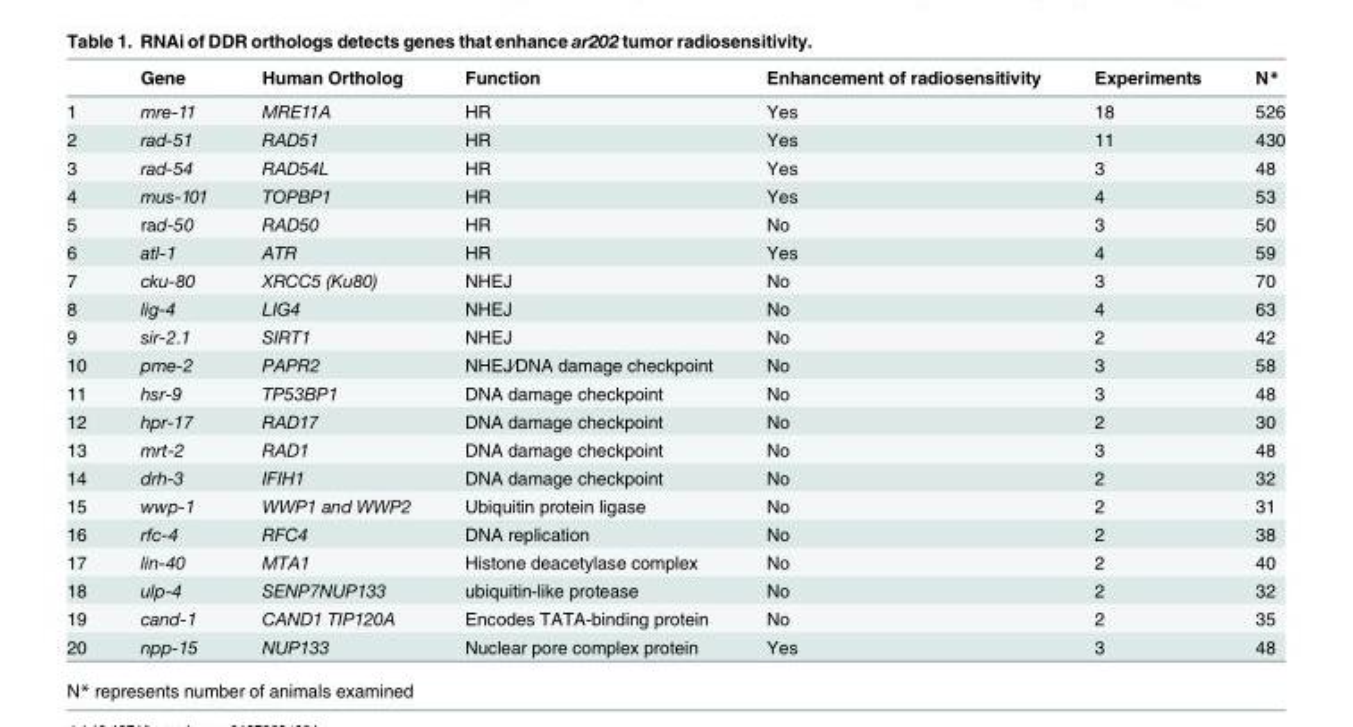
<table><thead><tr><td></td><td>Gene</td><td>Human Ortholog</td><td>Function</td><td>Enhancement of radiosensitivity</td><td>Experiments</td><td>N*</td></tr></thead><tbody><tr><td>1</td><td>mre-11</td><td>MRE11A</td><td>HR</td><td>Yes</td><td>18</td><td>526</td></tr><tr><td>2</td><td>rad-51</td><td>RAD51</td><td>HR</td><td>Yes</td><td>11</td><td>430</td></tr><tr><td>3</td><td>rad-54</td><td>RAD54L</td><td>HR</td><td>Yes</td><td>3</td><td>48</td></tr><tr><td>4</td><td>mus-101</td><td>TOPBP1</td><td>HR</td><td>Yes</td><td>4</td><td>53</td></tr><tr><td>5</td><td>rad-50</td><td>RAD50</td><td>HR</td><td>No</td><td>3</td><td>50</td></tr><tr><td>6</td><td>atl-1</td><td>ATR</td><td>HR</td><td>Yes</td><td>4</td><td>59</td></tr><tr><td>7</td><td>cku-80</td><td>XRCC5 (Ku80)</td><td>NHEJ</td><td>No</td><td>3</td><td>70</td></tr><tr><td>8</td><td>lig-4</td><td>LIG4</td><td>NHEJ</td><td>No</td><td>4</td><td>63</td></tr><tr><td>9</td><td>sir-2.1</td><td>SIRT1</td><td>NHEJ</td><td>No</td><td>2</td><td>42</td></tr><tr><td>10</td><td>pme-2</td><td>PAPR2</td><td>NHEJ⁄DNA damage checkpoint</td><td>No</td><td>3</td><td>58</td></tr><tr><td>11</td><td>hsr-9</td><td>TP53BP1</td><td>DNA damage checkpoint</td><td>No</td><td>3</td><td>48</td></tr><tr><td>12</td><td>hpr-17</td><td>RAD17</td><td>DNA damage checkpoint</td><td>No</td><td>2</td><td>30</td></tr><tr><td>13</td><td>mrt-2</td><td>RAD1</td><td>DNA damage checkpoint</td><td>No</td><td>3</td><td>48</td></tr><tr><td>14</td><td>drh-3</td><td>IFIH1</td><td>DNA damage checkpoint</td><td>No</td><td>2</td><td>32</td></tr><tr><td>15</td><td>wwp-1</td><td>WWP1 and WWP2</td><td>Ubiquitin protein ligase</td><td>No</td><td>2</td><td>31</td></tr><tr><td>16</td><td>rfc-4</td><td>RFC4</td><td>DNA replication</td><td>No</td><td>2</td><td>38</td></tr><tr><td>17</td><td>lin-40</td><td>MTA1</td><td>Histone deacetylase complex</td><td>No</td><td>2</td><td>40</td></tr><tr><td>18</td><td>ulp-4</td><td>SENP7NUP133</td><td>ubiquitin-like protease</td><td>No</td><td>2</td><td>32</td></tr><tr><td>19</td><td>cand-1</td><td>CAND1⁄TIP120A</td><td>Encodes TATA-binding protein</td><td>No</td><td>2</td><td>35</td></tr><tr><td>20</td><td>npp-15</td><td>NUP133</td><td>Nuclear pore complex protein</td><td>Yes</td><td>3</td><td>48</td></tr></tbody></table>